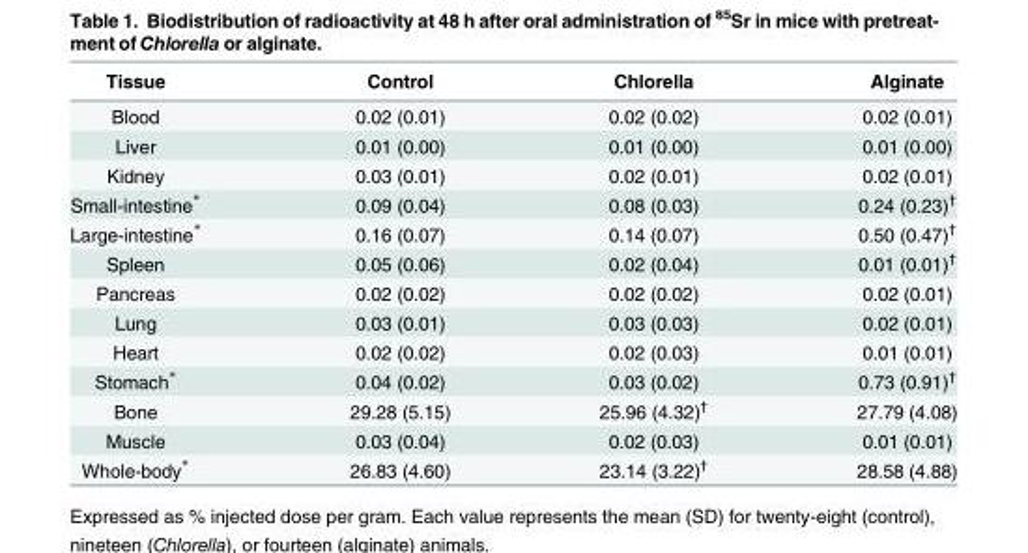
<table><thead><tr><td>Tissue</td><td>Control</td><td>Chlorella</td><td>Alginate</td></tr></thead><tbody><tr><td>Blood</td><td>0.02 (0.01)</td><td>0.02 (0.02)</td><td>0.02 (0.01)</td></tr><tr><td>Liver</td><td>0.01 (0.00)</td><td>0.01 (0.00)</td><td>0.01 (0.00)</td></tr><tr><td>Kidney</td><td>0.03 (0.01)</td><td>0.02 (0.01)</td><td>0.02 (0.01)</td></tr><tr><td>Small-intestine*</td><td>0.09 (0.04)</td><td>0.08 (0.03)</td><td>0.24 (0.23)<sup>†</sup></td></tr><tr><td>Large-intestine*</td><td>0.16 (0.07)</td><td>0.14 (0.07)</td><td>0.50 (0.47)<sup>†</sup></td></tr><tr><td>Spleen</td><td>0.05 (0.06)</td><td>0.02 (0.04)</td><td>0.01 (0.01)<sup>†</sup></td></tr><tr><td>Pancreas</td><td>0.02 (0.02)</td><td>0.02 (0.02)</td><td>0.02 (0.01)</td></tr><tr><td>Lung</td><td>0.03 (0.01)</td><td>0.03 (0.03)</td><td>0.02 (0.01)</td></tr><tr><td>Heart</td><td>0.02 (0.02)</td><td>0.02 (0.03)</td><td>0.01 (0.01)</td></tr><tr><td>Stomach*</td><td>0.04 (0.02)</td><td>0.03 (0.02)</td><td>0.73 (0.91)<sup>†</sup></td></tr><tr><td>Bone</td><td>29.28 (5.15)</td><td>25.96 (4.32)<sup>†</sup></td><td>27.79 (4.08)</td></tr><tr><td>Muscle</td><td>0.03 (0.04)</td><td>0.02 (0.03)</td><td>0.01 (0.01)</td></tr><tr><td>Whole-body*</td><td>26.83 (4.60)</td><td>23.14 (3.22)<sup>†</sup></td><td>28.58 (4.88)</td></tr></tbody></table>